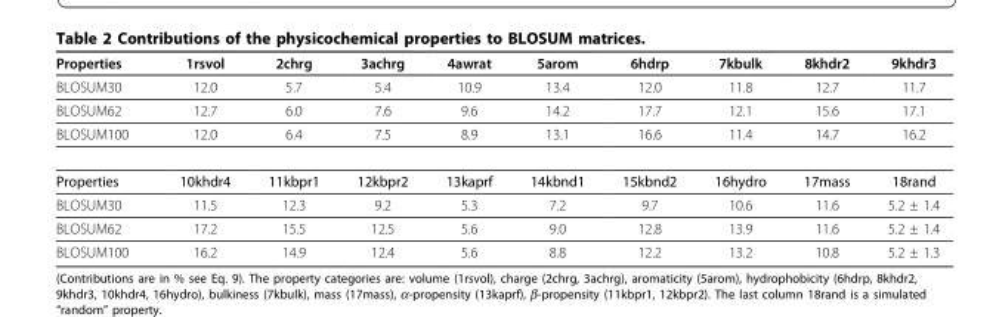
<table><thead><tr><td>Properties</td><td>1rsvol</td><td>2chrg</td><td>3achrg</td><td>4awrat</td><td>5arom</td><td>6hdrp</td><td>7kbulk</td><td>8khdr2</td><td>9khdr3</td></tr></thead><tbody><tr><td>BLOSUM30</td><td>12.0</td><td>5.7</td><td>5.4</td><td>10.9</td><td>13.4</td><td>12.0</td><td>11.8</td><td>12.7</td><td>11.7</td></tr><tr><td>BLOSUM62</td><td>12.7</td><td>6.0</td><td>7.6</td><td>9.6</td><td>14.2</td><td>17.7</td><td>12.1</td><td>15.6</td><td>17.1</td></tr><tr><td>BLOSUM100</td><td>12.0</td><td>6.4</td><td>7.5</td><td>8.9</td><td>13.1</td><td>16.6</td><td>11.4</td><td>14.7</td><td>16.2</td></tr><tr><td>Properties</td><td>10khdr4</td><td>11kbpr1</td><td>12kbpr2</td><td>13kaprf</td><td>14kbnd1</td><td>15kbnd2</td><td>16hydro</td><td>17mass</td><td>18rand</td></tr><tr><td>BLOSUM30</td><td>11.5</td><td>12.3</td><td>9.2</td><td>5.3</td><td>7.2</td><td>9.7</td><td>10.6</td><td>11.6</td><td>5.2 ± 1.4</td></tr><tr><td>BLOSUM62</td><td>17.2</td><td>15.5</td><td>12.5</td><td>5.6</td><td>9.0</td><td>12.8</td><td>13.9</td><td>11.6</td><td>5.2 ± 1.4</td></tr><tr><td>BLOSUM100</td><td>16.2</td><td>14.9</td><td>12.4</td><td>5.6</td><td>8.8</td><td>12.2</td><td>13.2</td><td>10.8</td><td>5.2 ± 1.3</td></tr></tbody></table>